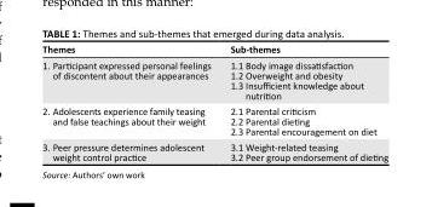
<table><thead><tr><td>Themes</td><td>Sub-themes</td></tr></thead><tbody><tr><td>1. Participant expressed personal feelings of discontent about their appearances</td><td>1.1 Body image dissatisfaction 1.2 Overweight and obesity 1.3 Insufficient knowledge about nutrition</td></tr><tr><td>2. Adolescents experience family teasing and false teachings about their weight</td><td>2.1 Parental criticism 2.2 Parental dieting 2.3 Parental encouragement on diet</td></tr><tr><td>3. Peer pressure determines adolescent weight control practice</td><td>3.1 Weight-related teasing 3.2 Peer group endorsement of dieting</td></tr></tbody></table>